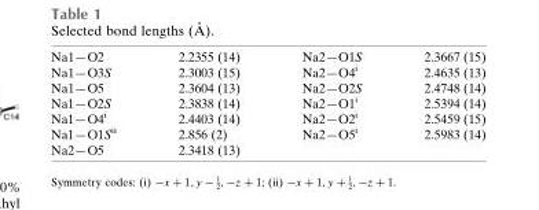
<table><tbody><tr><td>Na1—O2</td><td>2.2355 (14)</td><td>Na2—O1S</td><td>2.3667 (15)</td></tr><tr><td>Na1—O3S</td><td>2.3003 (15)</td><td>Na2—O4<sup>i</sup></td><td>2.4635 (13)</td></tr><tr><td>Na1—O5</td><td>2.3604 (13)</td><td>Na2—O2S</td><td>2.4748 (14)</td></tr><tr><td>Na1—O2S</td><td>2.3838 (14)</td><td>Na2—O1<sup>i</sup></td><td>2.5394 (14)</td></tr><tr><td>Na1—O4<sup>i</sup></td><td>2.4403 (14)</td><td>Na2—O2<sup>i</sup></td><td>2.5459 (15)</td></tr><tr><td>Na1—O1S<sup>ii</sup></td><td>2.856 (2)</td><td>Na2—O5<sup>i</sup></td><td>2.5983 (14)</td></tr><tr><td>Na2—O5</td><td>2.3418 (13)</td><td></td><td></td></tr></tbody></table>